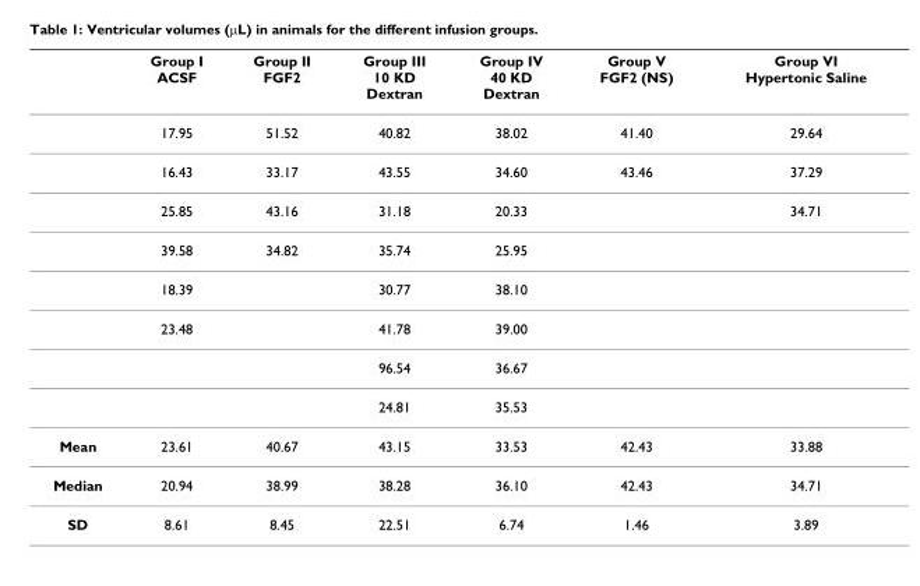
<table><thead><tr><td></td><td>Group I ACSF</td><td>Group II FGF2</td><td>Group III 10 KD Dextran</td><td>Group IV 40 KD Dextran</td><td>Group V FGF2 (NS)</td><td>Group VI Hypertonic Saline</td></tr></thead><tbody><tr><td></td><td>17.95</td><td>51.52</td><td>40.82</td><td>38.02</td><td>41.40</td><td>29.64</td></tr><tr><td></td><td>16.43</td><td>33.17</td><td>43.55</td><td>34.60</td><td>43.46</td><td>37.29</td></tr><tr><td></td><td>25.85</td><td>43.16</td><td>31.18</td><td>20.33</td><td></td><td>34.71</td></tr><tr><td></td><td>39.58</td><td>34.82</td><td>35.74</td><td>25.95</td><td></td><td></td></tr><tr><td></td><td>18.39</td><td></td><td>30.77</td><td>38.10</td><td></td><td></td></tr><tr><td></td><td>23.48</td><td></td><td>41.78</td><td>39.00</td><td></td><td></td></tr><tr><td></td><td></td><td></td><td>96.54</td><td>36.67</td><td></td><td></td></tr><tr><td></td><td></td><td></td><td>24.81</td><td>35.53</td><td></td><td></td></tr><tr><td>Mean</td><td>23.61</td><td>40.67</td><td>43.15</td><td>33.53</td><td>42.43</td><td>33.88</td></tr><tr><td>Median</td><td>20.94</td><td>38.99</td><td>38.28</td><td>36.10</td><td>42.43</td><td>34.71</td></tr><tr><td>SD</td><td>8.61</td><td>8.45</td><td>22.51</td><td>6.74</td><td>1.46</td><td>3.89</td></tr></tbody></table>